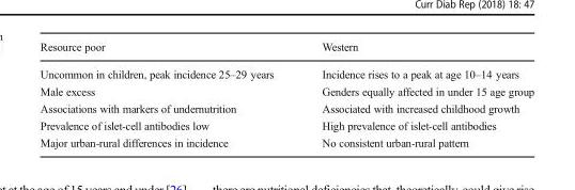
<table><thead><tr><td>Resource poor</td><td>Western</td></tr></thead><tbody><tr><td>Uncommon in children, peak incidence 25–29 years</td><td>Incidence rises to a peak at age 10–14 years</td></tr><tr><td>Male excess</td><td>Genders equally affected in under 15 age group</td></tr><tr><td>Associations with markers of undernutrition</td><td>Associated with increased childhood growth</td></tr><tr><td>Prevalence of islet-cell antibodies low</td><td>High prevalence of islet-cell antibodies</td></tr><tr><td>Major urban-rural differences in incidence</td><td>No consistent urban-rural pattern</td></tr></tbody></table>